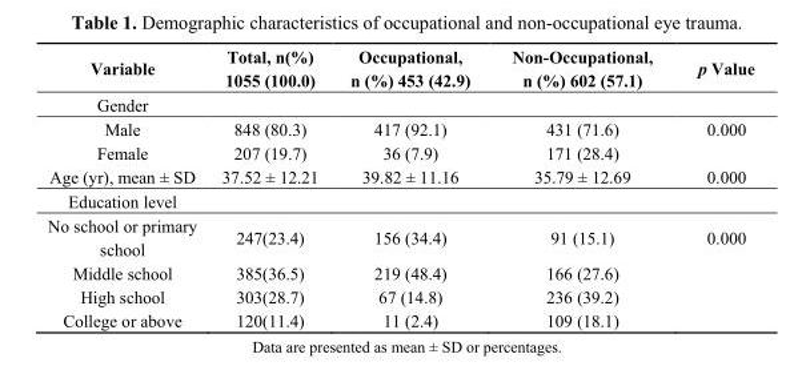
<table><thead><tr><td>Variable</td><td>Total, n(%) 1055 (100.0)</td><td>Occupational, n (%) 453 (42.9)</td><td>Non-Occupational, n (%) 602 (57.1)</td><td>p Value</td></tr></thead><tbody><tr><td colspan="5">Gender</td></tr><tr><td>Male</td><td>848 (80.3)</td><td>417 (92.1)</td><td>431 (71.6)</td><td>0.000</td></tr><tr><td>Female</td><td>207 (19.7)</td><td>36 (7.9)</td><td>171 (28.4)</td><td></td></tr><tr><td>Age (yr), mean ± SD</td><td>37.52 ± 12.21</td><td>39.82 ± 11.16</td><td>35.79 ± 12.69</td><td>0.000</td></tr><tr><td colspan="5">Education level</td></tr><tr><td>No school or primary school</td><td>247(23.4)</td><td>156 (34.4)</td><td>91 (15.1)</td><td>0.000</td></tr><tr><td>Middle school</td><td>385(36.5)</td><td>219 (48.4)</td><td>166 (27.6)</td><td></td></tr><tr><td>High school</td><td>303(28.7)</td><td>67 (14.8)</td><td>236 (39.2)</td><td></td></tr><tr><td>College or above</td><td>120(11.4)</td><td>11 (2.4)</td><td>109 (18.1)</td><td></td></tr></tbody></table>